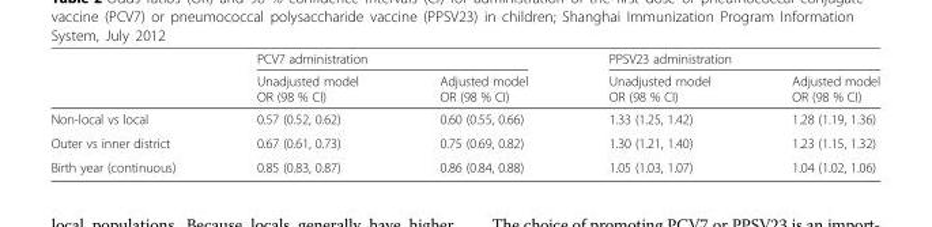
<table><thead><tr><td rowspan="2"></td><td colspan="2">PCV7 administration</td><td colspan="2">PPSV23 administration</td></tr><tr><td>Unadjusted model OR (98 % CI)</td><td>Adjusted model OR (98 % CI)</td><td>Unadjusted model OR (98 % CI)</td><td>Adjusted model OR (98 % CI)</td></tr></thead><tbody><tr><td>Non-local vs local</td><td>0.57 (0.52, 0.62)</td><td>0.60 (0.55, 0.66)</td><td>1.33 (1.25, 1.42)</td><td>1.28 (1.19, 1.36)</td></tr><tr><td>Outer vs inner district</td><td>0.67 (0.61, 0.73)</td><td>0.75 (0.69, 0.82)</td><td>1.30 (1.21, 1.40)</td><td>1.23 (1.15, 1.32)</td></tr><tr><td>Birth year (continuous)</td><td>0.85 (0.83, 0.87)</td><td>0.86 (0.84, 0.88)</td><td>1.05 (1.03, 1.07)</td><td>1.04 (1.02, 1.06)</td></tr></tbody></table>